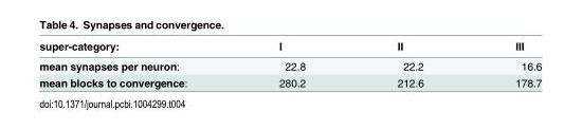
<table><thead><tr><td>super-category:</td><td>I</td><td>II</td><td>III</td></tr></thead><tbody><tr><td>mean synapses per neuron:</td><td>22.8</td><td>22.2</td><td>16.6</td></tr><tr><td>mean blocks to convergence:</td><td>280.2</td><td>212.6</td><td>178.7</td></tr></tbody></table>